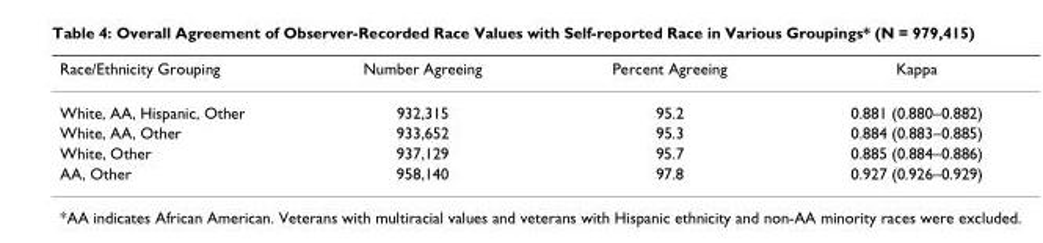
<table><thead><tr><td>Race/Ethnicity Grouping</td><td>Number Agreeing</td><td>Percent Agreeing</td><td>Kappa</td></tr></thead><tbody><tr><td>White, AA, Hispanic, Other</td><td>932,315</td><td>95.2</td><td>0.881 (0.880–0.882)</td></tr><tr><td>White, AA, Other</td><td>933,652</td><td>95.3</td><td>0.884 (0.883–0.885)</td></tr><tr><td>White, Other</td><td>937,129</td><td>95.7</td><td>0.885 (0.884–0.886)</td></tr><tr><td>AA, Other</td><td>958,140</td><td>97.8</td><td>0.927 (0.926–0.929)</td></tr></tbody></table>